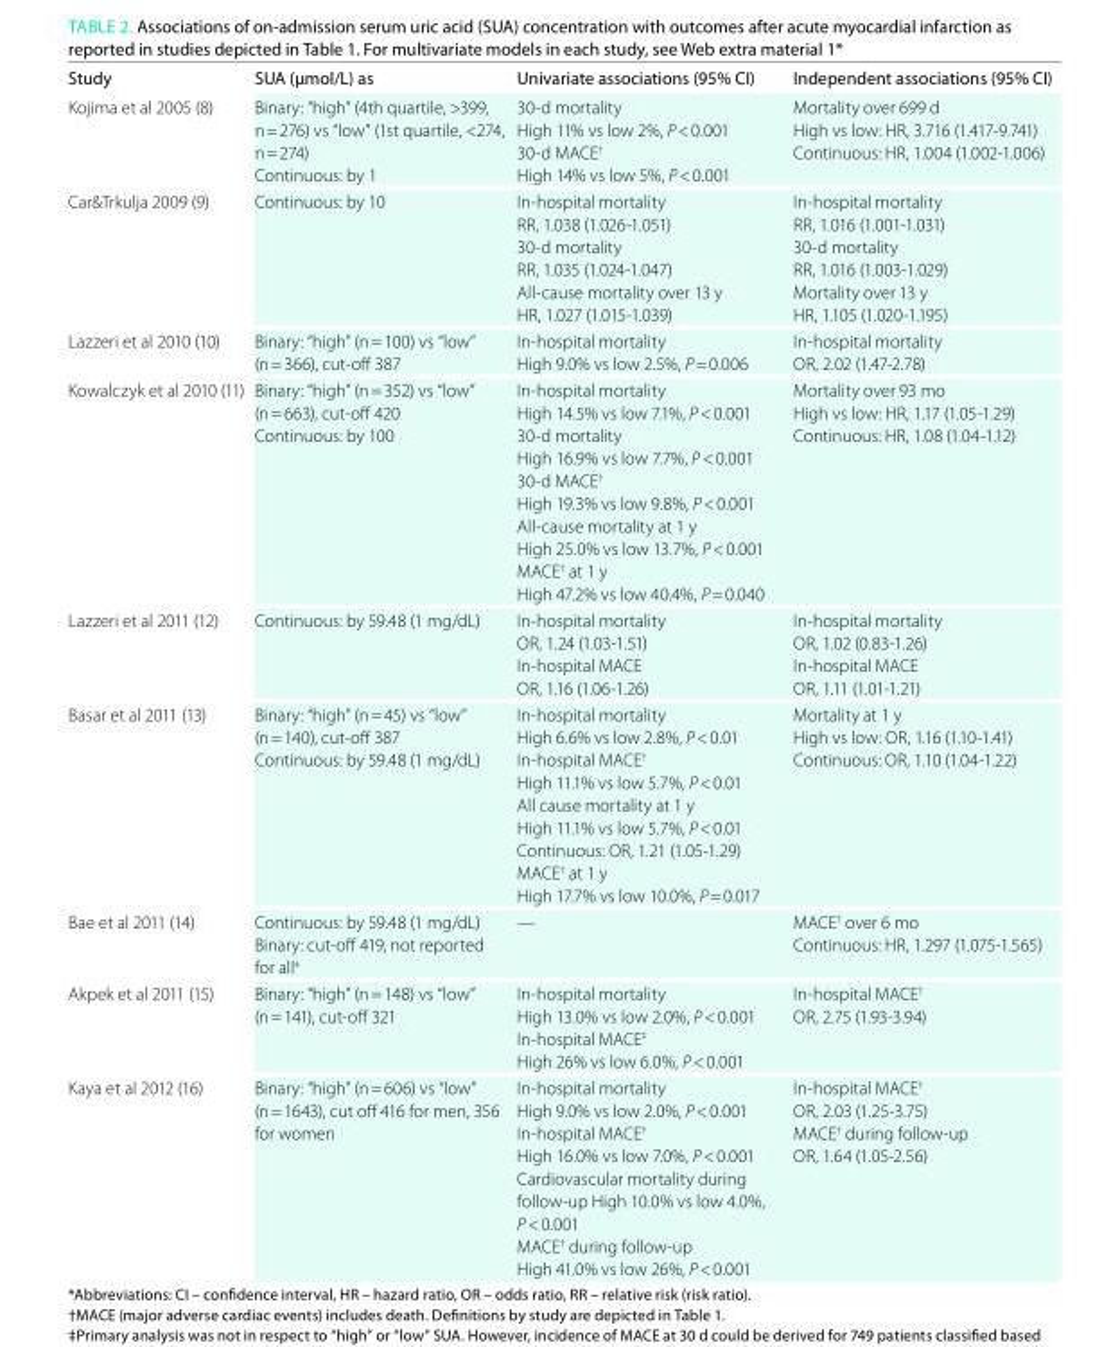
<table><thead><tr><td>Study</td><td>Sua (μmol/l) as</td><td>univariate associations (95% Ci)</td><td>independent associations (95% Ci)</td></tr></thead><tbody><tr><td>Kojima et al 2005 (8)</td><td>Binary: “high” (4th quartile, &gt;399, n = 276) vs “low” (1st quartile, &lt;274, n = 274) Continuous: by 1</td><td>30-d mortality High 11% vs low 2%, P &lt; 0.001 30-d MACE<sup>†</sup> High 14% vs low 5%, P &lt; 0.001</td><td>Mortality over 699 d High vs low: HR, 3.716 (1.417-9.741) Continuous: HR, 1.004 (1.002-1.006)</td></tr><tr><td>Car&amp;Trkulja 2009 (9)</td><td>Continuous: by 10</td><td>In-hospital mortality RR, 1.038 (1.026-1.051) 30-d mortality RR, 1.035 (1.024-1.047) All-cause mortality over 13 y HR, 1.027 (1.015-1.039)</td><td>In-hospital mortality RR, 1.016 (1.001-1.031) 30-d mortality RR, 1.016 (1.003-1.029) Mortality over 13 y HR, 1.105 (1.020-1.195)</td></tr><tr><td>Lazzeri et al 2010 (10)</td><td>Binary: “high” (n = 100) vs “low” (n = 366), cut-off 387</td><td>In-hospital mortality High 9.0% vs low 2.5%, P = 0.006</td><td>In-hospital mortality OR, 2.02 (1.47-2.78)</td></tr><tr><td>Kowalczyk et al 2010 (11)</td><td>Binary: “high” (n = 352) vs “low” (n = 663), cut-off 420 Continuous: by 100</td><td>In-hospital mortality High 14.5% vs low 7.1%, P &lt; 0.001 30-d mortality High 16.9% vs low 7.7%, P &lt; 0.001 30-d MACE<sup>†</sup> High 19.3% vs low 9.8%, P &lt; 0.001 All-cause mortality at 1 y High 25.0% vs low 13.7%, P &lt; 0.001 MACE<sup>†</sup> at 1 y High 47.2% vs low 40.4%, P = 0.040</td><td>Mortality over 93 mo High vs low: HR, 1.17 (1.05-1.29) Continuous: HR, 1.08 (1.04-1.12)</td></tr><tr><td>Lazzeri et al 2011 (12)</td><td>Continuous: by 59.48 (1 mg/dL)</td><td>In-hospital mortality OR, 1.24 (1.03-1.51) In-hospital MACE OR, 1.16 (1.06-1.26)</td><td>In-hospital mortality OR, 1.02 (0.83-1.26) In-hospital MACE OR, 1.11 (1.01-1.21)</td></tr><tr><td>Basar et al 2011 (13)</td><td>Binary: “high” (n = 45) vs “low” (n = 140), cut-off 387 Continuous: by 59.48 (1 mg/dL)</td><td>In-hospital mortality High 6.6% vs low 2.8%, P &lt; 0.01 In-hospital MACE<sup>†</sup> High 11.1% vs low 5.7%, P &lt; 0.01 All cause mortality at 1 y High 11.1% vs low 5.7%, P &lt; 0.01 Continuous: OR, 1.21 (1.05-1.29) MACE<sup>†</sup> at 1 y High 17.7% vs low 10.0%, P = 0.017</td><td>Mortality at 1 y High vs low: OR, 1.16 (1.10-1.41) Continuous: OR, 1.10 (1.04-1.22)</td></tr><tr><td>Bae et al 2011 (14)</td><td>Continuous: by 59.48 (1 mg/dL) Binary: cut-off 419, not reported for all<sup>‡</sup></td><td>—</td><td>MACE<sup>†</sup> over 6 mo Continuous: HR, 1.297 (1.075-1.565)</td></tr><tr><td>Akpek et al 2011 (15)</td><td>Binary: “high” (n = 148) vs “low” (n = 141), cut-off 321</td><td>In-hospital mortality High 13.0% vs low 2.0%, P &lt; 0.001 In-hospital MACE<sup>‡</sup> High 26% vs low 6.0%, P &lt; 0.001</td><td>In-hospital MACE<sup>†</sup> OR, 2.75 (1.93-3.94)</td></tr><tr><td>Kaya et al 2012 (16)</td><td>Binary: “high” (n = 606) vs “low” (n = 1643), cut off 416 for men, 356 for women</td><td>In-hospital mortality High 9.0% vs low 2.0%, P &lt; 0.001 In-hospital MACE<sup>†</sup> High 16.0% vs low 7.0%, P &lt; 0.001 Cardiovascular mortality during follow-up High 10.0% vs low 4.0%, P &lt; 0.001 MACE<sup>†</sup> during follow-up High 41.0% vs low 26%, P &lt; 0.001</td><td>In-hospital MACE<sup>†</sup> OR, 2.03 (1.25-3.75) MACE<sup>†</sup> during follow-up OR, 1.64 (1.05-2.56)</td></tr></tbody></table>